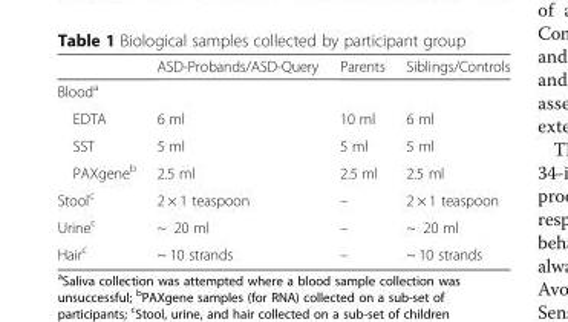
<table><thead><tr><td></td><td>ASD-Probands/ASD-Query</td><td>Parents</td><td>Siblings/Controls</td></tr></thead><tbody><tr><td colspan="4">Blood<sup>a</sup></td></tr><tr><td>EDTA</td><td>6 ml</td><td>10 ml</td><td>6 ml</td></tr><tr><td>SST</td><td>5 ml</td><td>5 ml</td><td>5 ml</td></tr><tr><td>PAXgene<sup>b</sup></td><td>2.5 ml</td><td>2.5 ml</td><td>2.5 ml</td></tr><tr><td>Stool<sup>c</sup></td><td>2 × 1 teaspoon</td><td>–</td><td>2 × 1 teaspoon</td></tr><tr><td>Urine<sup>c</sup></td><td>~ 20 ml</td><td>–</td><td>~ 20 ml</td></tr><tr><td>Hair<sup>c</sup></td><td>~ 10 strands</td><td>–</td><td>~ 10 strands</td></tr></tbody></table>